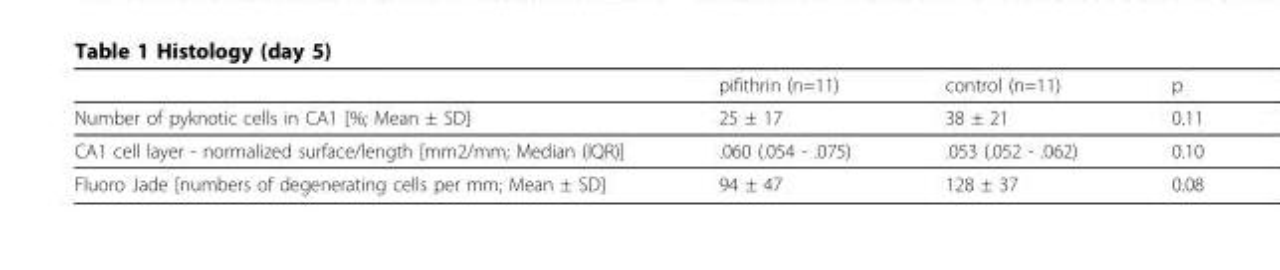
<table><thead><tr><td></td><td>pifithrin (n=11)</td><td>control (n=11)</td><td>p</td></tr></thead><tbody><tr><td>Number of pyknotic cells in CA1 [%; Mean ± SD]</td><td>25 ± 17</td><td>38 ± 21</td><td>0.11</td></tr><tr><td>CA1 cell layer - normalized surface/length [mm2/mm; Median (IQR)]</td><td>.060 (.054 - .075)</td><td>.053 (.052 - .062)</td><td>0.10</td></tr><tr><td>Fluoro Jade [numbers of degenerating cells per mm; Mean ± SD]</td><td>94 ± 47</td><td>128 ± 37</td><td>0.08</td></tr></tbody></table>